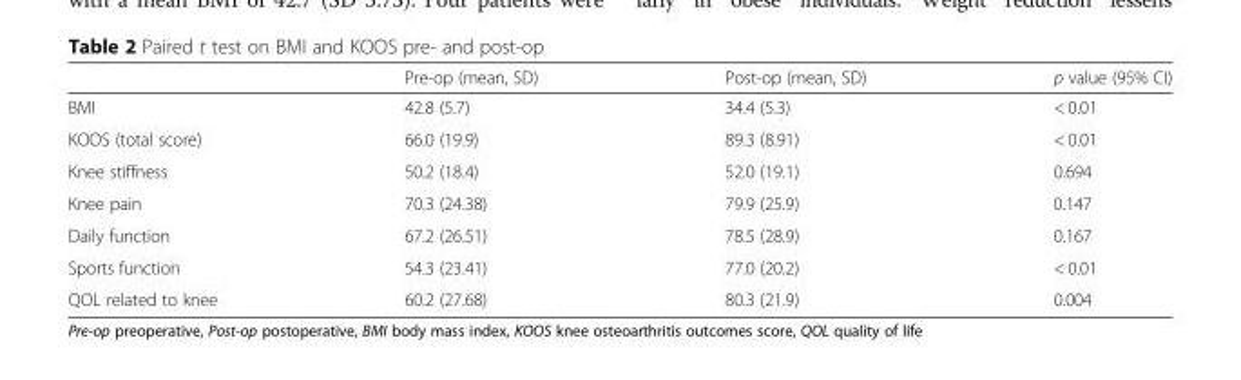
<table><thead><tr><td></td><td>Pre-op (mean, SD)</td><td>Post-op (mean, SD)</td><td>p value (95% CI)</td></tr></thead><tbody><tr><td>BMI</td><td>42.8 (5.7)</td><td>34.4 (5.3)</td><td>&lt; 0.01</td></tr><tr><td>KOOS (total score)</td><td>66.0 (19.9)</td><td>89.3 (8.91)</td><td>&lt; 0.01</td></tr><tr><td>Knee stiffness</td><td>50.2 (18.4)</td><td>52.0 (19.1)</td><td>0.694</td></tr><tr><td>Knee pain</td><td>70.3 (24.38)</td><td>79.9 (25.9)</td><td>0.147</td></tr><tr><td>Daily function</td><td>67.2 (26.51)</td><td>78.5 (28.9)</td><td>0.167</td></tr><tr><td>Sports function</td><td>54.3 (23.41)</td><td>77.0 (20.2)</td><td>&lt; 0.01</td></tr><tr><td>QOL related to knee</td><td>60.2 (27.68)</td><td>80.3 (21.9)</td><td>0.004</td></tr></tbody></table>